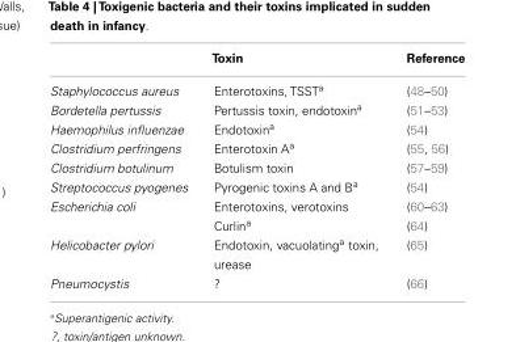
<table><thead><tr><td></td><td>Toxin</td><td>Reference</td></tr></thead><tbody><tr><td>Staphylococcus aureus</td><td>Enterotoxins, TSST<sup>a</sup></td><td>(48–50)</td></tr><tr><td>Bordetella pertussis</td><td>Pertussis toxin, endotoxin<sup>a</sup></td><td>(51–53)</td></tr><tr><td>Haemophilus influenzae</td><td>Endotoxin<sup>a</sup></td><td>(54)</td></tr><tr><td>Clostridium perfringens</td><td>Enterotoxin A<sup>a</sup></td><td>(55, 56)</td></tr><tr><td>Clostridium botulinum</td><td>Botulism toxin</td><td>(57–59)</td></tr><tr><td>Streptococcus pyogenes</td><td>Pyrogenic toxins A and B<sup>a</sup></td><td>(54)</td></tr><tr><td rowspan="2">Escherichia coli</td><td>Enterotoxins, verotoxins</td><td>(60–63)</td></tr><tr><td>Curlin<sup>a</sup></td><td>(64)</td></tr><tr><td>Helicobacter pylori</td><td>Endotoxin, vacuolating<sup>a</sup> toxin, urease</td><td>(65)</td></tr><tr><td>Pneumocystis</td><td>?</td><td>(66)</td></tr></tbody></table>